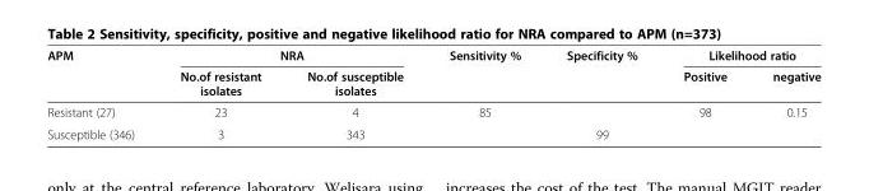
<table><thead><tr><td rowspan="2">APM</td><td colspan="2">NRA</td><td rowspan="2">Sensitivity %</td><td rowspan="2">Specificity %</td><td colspan="2">Likelihood ratio</td></tr><tr><td>No.of resistant isolates</td><td>No.of susceptible isolates</td><td>Positive</td><td>negative</td></tr></thead><tbody><tr><td>Resistant (27)</td><td>23</td><td>4</td><td>85</td><td></td><td>98</td><td>0.15</td></tr><tr><td>Susceptible (346)</td><td>3</td><td>343</td><td></td><td>99</td><td></td><td></td></tr></tbody></table>